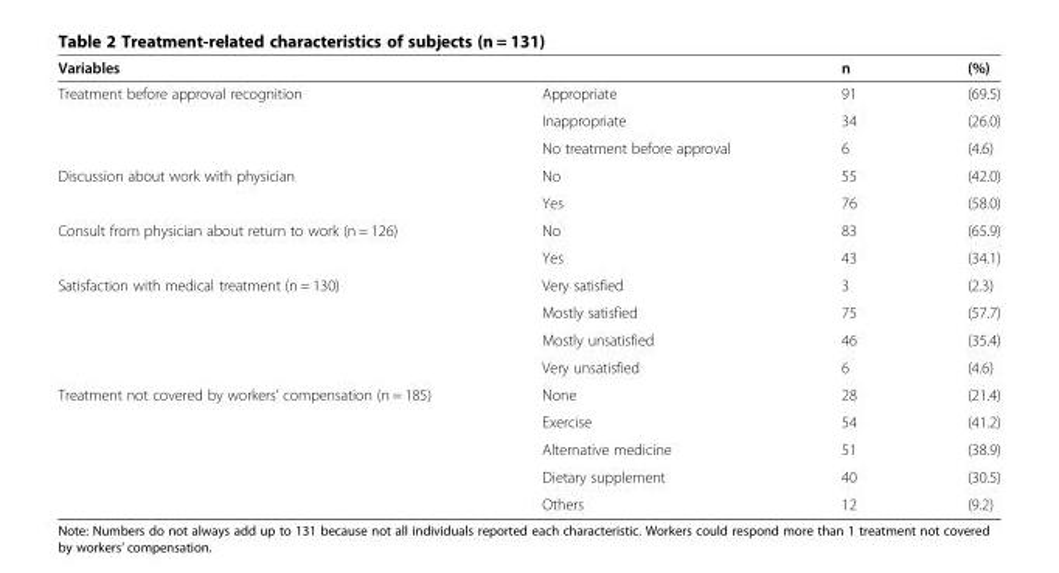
<table><thead><tr><td>Variables</td><td></td><td>n</td><td>(%)</td></tr></thead><tbody><tr><td rowspan="3">Treatment before approval recognition</td><td>Appropriate</td><td>91</td><td>(69.5)</td></tr><tr><td>Inappropriate</td><td>34</td><td>(26.0)</td></tr><tr><td>No treatment before approval</td><td>6</td><td>(4.6)</td></tr><tr><td rowspan="2">Discussion about work with physician</td><td>No</td><td>55</td><td>(42.0)</td></tr><tr><td>Yes</td><td>76</td><td>(58.0)</td></tr><tr><td rowspan="2">Consult from physician about return to work (n = 126)</td><td>No</td><td>83</td><td>(65.9)</td></tr><tr><td>Yes</td><td>43</td><td>(34.1)</td></tr><tr><td rowspan="4">Satisfaction with medical treatment (n = 130)</td><td>Very satisfied</td><td>3</td><td>(2.3)</td></tr><tr><td>Mostly satisfied</td><td>75</td><td>(57.7)</td></tr><tr><td>Mostly unsatisfied</td><td>46</td><td>(35.4)</td></tr><tr><td>Very unsatisfied</td><td>6</td><td>(4.6)</td></tr><tr><td rowspan="5">Treatment not covered by workers’ compensation (n = 185)</td><td>None</td><td>28</td><td>(21.4)</td></tr><tr><td>Exercise</td><td>54</td><td>(41.2)</td></tr><tr><td>Alternative medicine</td><td>51</td><td>(38.9)</td></tr><tr><td>Dietary supplement</td><td>40</td><td>(30.5)</td></tr><tr><td>Others</td><td>12</td><td>(9.2)</td></tr></tbody></table>